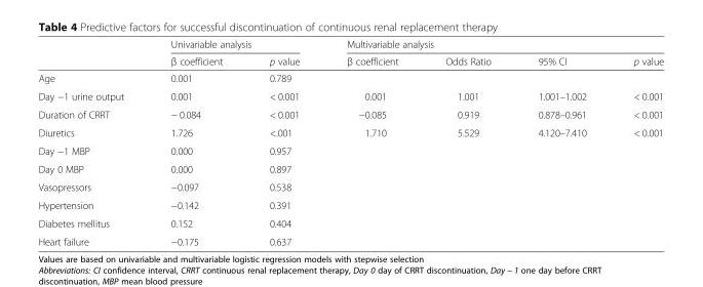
<table><thead><tr><td rowspan="2"></td><td colspan="2">Univariable analysis</td><td colspan="4">Multivariable analysis</td></tr><tr><td>β coefficient</td><td>p value</td><td>β coefficient</td><td>Odds Ratio</td><td>95% CI</td><td>p value</td></tr></thead><tbody><tr><td>Age</td><td>0.001</td><td>0.789</td><td></td><td></td><td></td><td></td></tr><tr><td>Day −1 urine output</td><td>0.001</td><td>&lt; 0.001</td><td>0.001</td><td>1.001</td><td>1.001–1.002</td><td>&lt; 0.001</td></tr><tr><td>Duration of CRRT</td><td>− 0.084</td><td>&lt; 0.001</td><td>−0.085</td><td>0.919</td><td>0.878–0.961</td><td>&lt; 0.001</td></tr><tr><td>Diuretics</td><td>1.726</td><td>&lt;.001</td><td>1.710</td><td>5.529</td><td>4.120–7.410</td><td>&lt; 0.001</td></tr><tr><td>Day −1 MBP</td><td>0.000</td><td>0.957</td><td></td><td></td><td></td><td></td></tr><tr><td>Day 0 MBP</td><td>0.000</td><td>0.897</td><td></td><td></td><td></td><td></td></tr><tr><td>Vasopressors</td><td>−0.097</td><td>0.538</td><td></td><td></td><td></td><td></td></tr><tr><td>Hypertension</td><td>−0.142</td><td>0.391</td><td></td><td></td><td></td><td></td></tr><tr><td>Diabetes mellitus</td><td>0.152</td><td>0.404</td><td></td><td></td><td></td><td></td></tr><tr><td>Heart failure</td><td>−0.175</td><td>0.637</td><td></td><td></td><td></td><td></td></tr></tbody></table>